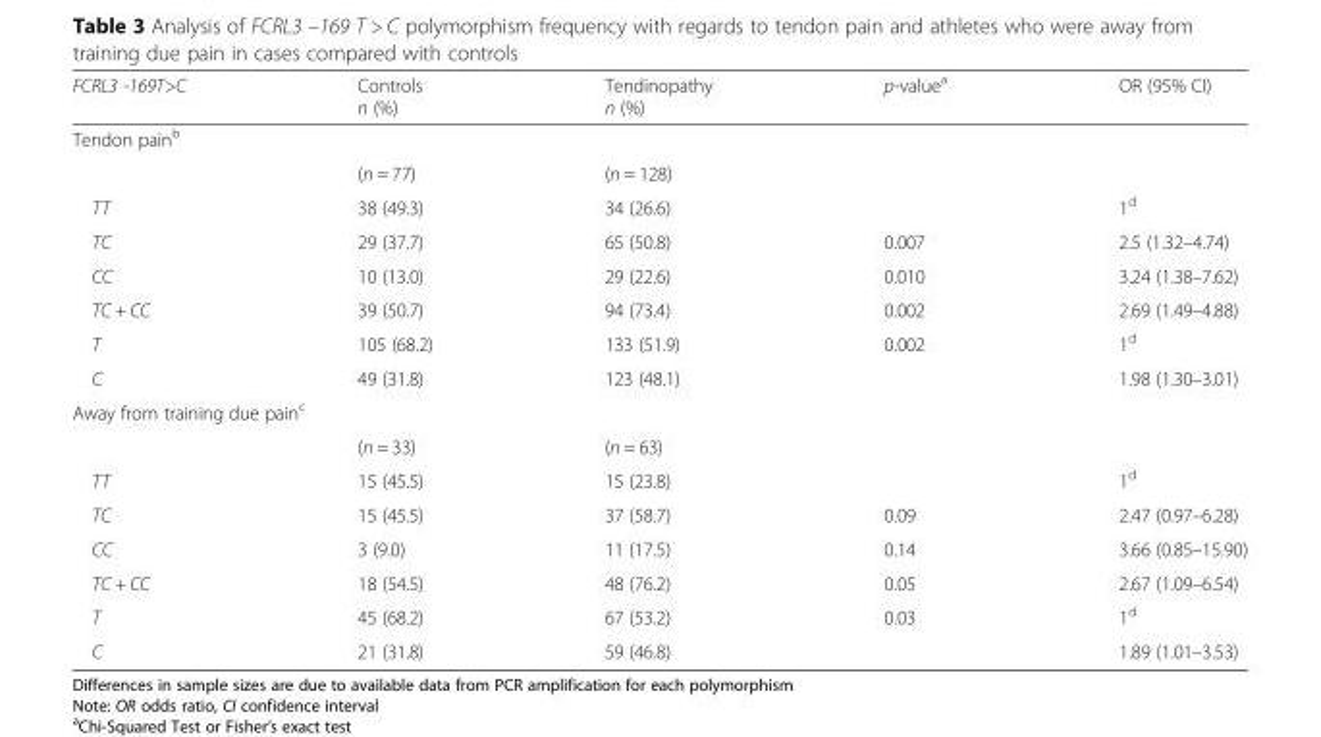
<table><thead><tr><td>FCRL3 -169T&gt;C</td><td>Controls n (%)</td><td>Tendinopathy n (%)</td><td>p-value<sup>a</sup></td><td>OR (95% CI)</td></tr></thead><tbody><tr><td colspan="5">Tendon pain<sup>b</sup></td></tr><tr><td></td><td>(n = 77)</td><td>(n = 128)</td><td></td><td></td></tr><tr><td>TT</td><td>38 (49.3)</td><td>34 (26.6)</td><td></td><td>1<sup>d</sup></td></tr><tr><td>TC</td><td>29 (37.7)</td><td>65 (50.8)</td><td>0.007</td><td>2.5 (1.32–4.74)</td></tr><tr><td>CC</td><td>10 (13.0)</td><td>29 (22.6)</td><td>0.010</td><td>3.24 (1.38–7.62)</td></tr><tr><td>TC + CC</td><td>39 (50.7)</td><td>94 (73.4)</td><td>0.002</td><td>2.69 (1.49–4.88)</td></tr><tr><td>T</td><td>105 (68.2)</td><td>133 (51.9)</td><td rowspan="2">0.002</td><td>1<sup>d</sup></td></tr><tr><td>C</td><td>49 (31.8)</td><td>123 (48.1)</td><td>1.98 (1.30–3.01)</td></tr><tr><td colspan="5">Away from training due pain<sup>c</sup></td></tr><tr><td></td><td>(n = 33)</td><td>(n = 63)</td><td></td><td></td></tr><tr><td>TT</td><td>15 (45.5)</td><td>15 (23.8)</td><td></td><td>1<sup>d</sup></td></tr><tr><td>TC</td><td>15 (45.5)</td><td>37 (58.7)</td><td>0.09</td><td>2.47 (0.97–6.28)</td></tr><tr><td>CC</td><td>3 (9.0)</td><td>11 (17.5)</td><td>0.14</td><td>3.66 (0.85–15.90)</td></tr><tr><td>TC + CC</td><td>18 (54.5)</td><td>48 (76.2)</td><td>0.05</td><td>2.67 (1.09–6.54)</td></tr><tr><td>T</td><td>45 (68.2)</td><td>67 (53.2)</td><td rowspan="2">0.03</td><td>1<sup>d</sup></td></tr><tr><td>C</td><td>21 (31.8)</td><td>59 (46.8)</td><td>1.89 (1.01–3.53)</td></tr></tbody></table>